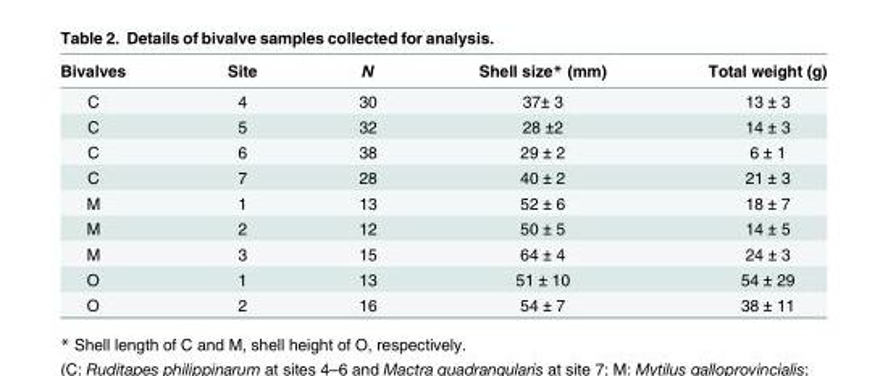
<table><thead><tr><td>Bivalves</td><td>Site</td><td>N</td><td>Shell size* (mm)</td><td>Total weight (g)</td></tr></thead><tbody><tr><td>C</td><td>4</td><td>30</td><td>37± 3</td><td>13 ± 3</td></tr><tr><td>C</td><td>5</td><td>32</td><td>28 ±2</td><td>14 ± 3</td></tr><tr><td>C</td><td>6</td><td>38</td><td>29 ± 2</td><td>6 ± 1</td></tr><tr><td>C</td><td>7</td><td>28</td><td>40 ± 2</td><td>21 ± 3</td></tr><tr><td>M</td><td>1</td><td>13</td><td>52 ± 6</td><td>18 ± 7</td></tr><tr><td>M</td><td>2</td><td>12</td><td>50 ± 5</td><td>14 ± 5</td></tr><tr><td>M</td><td>3</td><td>15</td><td>64 ± 4</td><td>24 ± 3</td></tr><tr><td>O</td><td>1</td><td>13</td><td>51 ± 10</td><td>54 ± 29</td></tr><tr><td>O</td><td>2</td><td>16</td><td>54 ± 7</td><td>38 ± 11</td></tr></tbody></table>